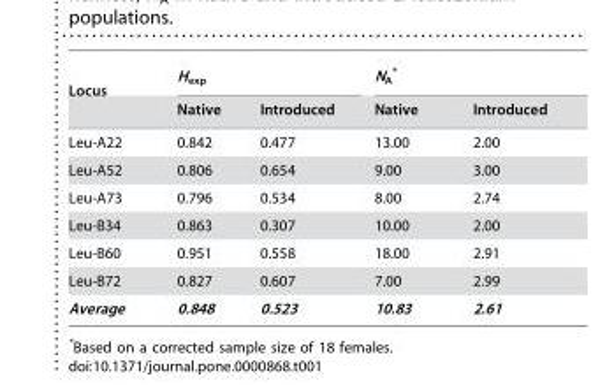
<table><thead><tr><td rowspan="2">Locus</td><td colspan="2">H<sub>exp</sub></td><td colspan="2">N<sub>A</sub> *</td></tr><tr><td>Native</td><td>Introduced</td><td>Native</td><td>Introduced</td></tr></thead><tbody><tr><td>Leu-A22</td><td>0.842</td><td>0.477</td><td>13.00</td><td>2.00</td></tr><tr><td>Leu-A52</td><td>0.806</td><td>0.654</td><td>9.00</td><td>3.00</td></tr><tr><td>Leu-A73</td><td>0.796</td><td>0.534</td><td>8.00</td><td>2.74</td></tr><tr><td>Leu-B34</td><td>0.863</td><td>0.307</td><td>10.00</td><td>2.00</td></tr><tr><td>Leu-B60</td><td>0.951</td><td>0.558</td><td>18.00</td><td>2.91</td></tr><tr><td>Leu-B72</td><td>0.827</td><td>0.607</td><td>7.00</td><td>2.99</td></tr><tr><td>Average</td><td>0.848</td><td>0.523</td><td>10.83</td><td>2.61</td></tr></tbody></table>